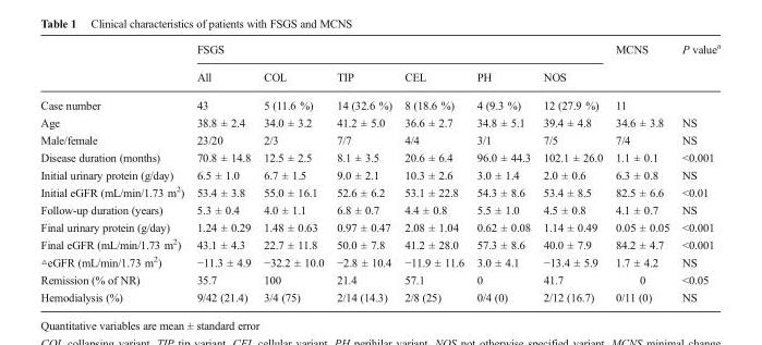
<table><thead><tr><td rowspan="2"></td><td colspan="6">FSGS</td><td rowspan="2">MCNS</td><td rowspan="2">P value<sup>a</sup></td></tr><tr><td>All</td><td>COL</td><td>TIP</td><td>CEL</td><td>PH</td><td>NOS</td></tr></thead><tbody><tr><td>Case number</td><td>43</td><td>5 (11.6 %)</td><td>14 (32.6 %)</td><td>8 (18.6 %)</td><td>4 (9.3 %)</td><td>12 (27.9 %)</td><td>11</td><td></td></tr><tr><td>Age</td><td>38.8 ± 2.4</td><td>34.0 ± 3.2</td><td>41.2 ± 5.0</td><td>36.6 ± 2.7</td><td>34.8 ± 5.1</td><td>39.4 ± 4.8</td><td>34.6 ± 3.8</td><td>NS</td></tr><tr><td>Male/female</td><td>23/20</td><td>2/3</td><td>7/7</td><td>4/4</td><td>3/1</td><td>7/5</td><td>7/4</td><td>NS</td></tr><tr><td>Disease duration (months)</td><td>70.8 ± 14.8</td><td>12.5 ± 2.5</td><td>8.1 ± 3.5</td><td>20.6 ± 6.4</td><td>96.0 ± 44.3</td><td>102.1 ± 26.0</td><td>1.1 ± 0.1</td><td>&lt;0.001</td></tr><tr><td>Initial urinary protein (g/day)</td><td>6.5 ± 1.0</td><td>6.7 ± 1.5</td><td>9.0 ± 2.1</td><td>10.3 ± 2.6</td><td>3.0 ± 1.4</td><td>2.0 ± 0.6</td><td>6.3 ± 0.8</td><td>NS</td></tr><tr><td>Initial eGFR (mL/min/1.73 m<sup>2</sup>)</td><td>53.4 ± 3.8</td><td>55.0 ± 16.1</td><td>52.6 ± 6.2</td><td>53.1 ± 22.8</td><td>54.3 ± 8.6</td><td>53.4 ± 8.5</td><td>82.5 ± 6.6</td><td>&lt;0.01</td></tr><tr><td>Follow-up duration (years)</td><td>5.3 ± 0.4</td><td>4.0 ± 1.1</td><td>6.8 ± 0.7</td><td>4.4 ± 0.8</td><td>5.5 ± 1.0</td><td>4.5 ± 0.8</td><td>4.1 ± 0.7</td><td>NS</td></tr><tr><td>Final urinary protein (g/day)</td><td>1.24 ± 0.29</td><td>1.48 ± 0.63</td><td>0.97 ± 0.47</td><td>2.08 ± 1.04</td><td>0.62 ± 0.08</td><td>1.14 ± 0.49</td><td>0.05 ± 0.05</td><td>&lt;0.001</td></tr><tr><td>Final eGFR (mL/min/1.73 m<sup>2</sup>)</td><td>43.1 ± 4.3</td><td>22.7 ± 11.8</td><td>50.0 ± 7.8</td><td>41.2 ± 28.0</td><td>57.3 ± 8.6</td><td>40.0 ± 7.9</td><td>84.2 ± 4.7</td><td>&lt;0.001</td></tr><tr><td>△eGFR (mL/min/1.73 m<sup>2</sup>)</td><td>−11.3 ± 4.9</td><td>−32.2 ± 10.0</td><td>−2.8 ± 10.4</td><td>−11.9 ± 11.6</td><td>3.0 ± 4.1</td><td>−13.4 ± 5.9</td><td>1.7 ± 4.2</td><td>NS</td></tr><tr><td>Remission (% of NR)</td><td>35.7</td><td>100</td><td>21.4</td><td>57.1</td><td>0</td><td>41.7</td><td>0</td><td>&lt;0.05</td></tr><tr><td>Hemodialysis (%)</td><td>9/42 (21.4)</td><td>3/4 (75)</td><td>2/14 (14.3)</td><td>2/8 (25)</td><td>0/4 (0)</td><td>2/12 (16.7)</td><td>0/11 (0)</td><td>NS</td></tr></tbody></table>